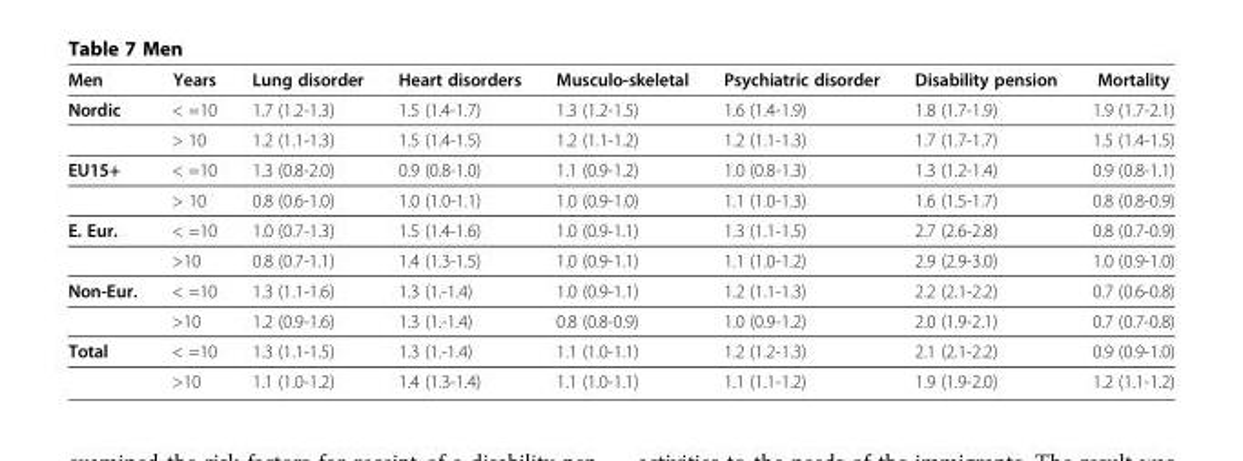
<table><thead><tr><td>Men</td><td>Years</td><td>Lung disorder</td><td>Heart disorders</td><td>Musculo-skeletal</td><td>Psychiatric disorder</td><td>Disability pension</td><td>Mortality</td></tr></thead><tbody><tr><td rowspan="2">Nordic</td><td>&lt; =10</td><td>1.7 (1.2-1.3)</td><td>1.5 (1.4-1.7)</td><td>1.3 (1.2-1.5)</td><td>1.6 (1.4-1.9)</td><td>1.8 (1.7-1.9)</td><td>1.9 (1.7-2.1)</td></tr><tr><td>&gt; 10</td><td>1.2 (1.1-1.3)</td><td>1.5 (1.4-1.5)</td><td>1.2 (1.1-1.2)</td><td>1.2 (1.1-1.3)</td><td>1.7 (1.7-1.7)</td><td>1.5 (1.4-1.5)</td></tr><tr><td rowspan="2">EU15+</td><td>&lt; =10</td><td>1.3 (0.8-2.0)</td><td>0.9 (0.8-1.0)</td><td>1.1 (0.9-1.2)</td><td>1.0 (0.8-1.3)</td><td>1.3 (1.2-1.4)</td><td>0.9 (0.8-1.1)</td></tr><tr><td>&gt; 10</td><td>0.8 (0.6-1.0)</td><td>1.0 (1.0-1.1)</td><td>1.0 (0.9-1.0)</td><td>1.1 (1.0-1.3)</td><td>1.6 (1.5-1.7)</td><td>0.8 (0.8-0.9)</td></tr><tr><td rowspan="2">E. Eur.</td><td>&lt; =10</td><td>1.0 (0.7-1.3)</td><td>1.5 (1.4-1.6)</td><td>1.0 (0.9-1.1)</td><td>1.3 (1.1-1.5)</td><td>2.7 (2.6-2.8)</td><td>0.8 (0.7-0.9)</td></tr><tr><td>&gt;10</td><td>0.8 (0.7-1.1)</td><td>1.4 (1.3-1.5)</td><td>1.0 (0.9-1.1)</td><td>1.1 (1.0-1.2)</td><td>2.9 (2.9-3.0)</td><td>1.0 (0.9-1.0)</td></tr><tr><td rowspan="2">Non-Eur.</td><td>&lt; =10</td><td>1.3 (1.1-1.6)</td><td>1.3 (1.-1.4)</td><td>1.0 (0.9-1.1)</td><td>1.2 (1.1-1.3)</td><td>2.2 (2.1-2.2)</td><td>0.7 (0.6-0.8)</td></tr><tr><td>&gt;10</td><td>1.2 (0.9-1.6)</td><td>1.3 (1.-1.4)</td><td>0.8 (0.8-0.9)</td><td>1.0 (0.9-1.2)</td><td>2.0 (1.9-2.1)</td><td>0.7 (0.7-0.8)</td></tr><tr><td rowspan="2">Total</td><td>&lt; =10</td><td>1.3 (1.1-1.5)</td><td>1.3 (1.-1.4)</td><td>1.1 (1.0-1.1)</td><td>1.2 (1.2-1.3)</td><td>2.1 (2.1-2.2)</td><td>0.9 (0.9-1.0)</td></tr><tr><td>&gt;10</td><td>1.1 (1.0-1.2)</td><td>1.4 (1.3-1.4)</td><td>1.1 (1.0-1.1)</td><td>1.1 (1.1-1.2)</td><td>1.9 (1.9-2.0)</td><td>1.2 (1.1-1.2)</td></tr></tbody></table>